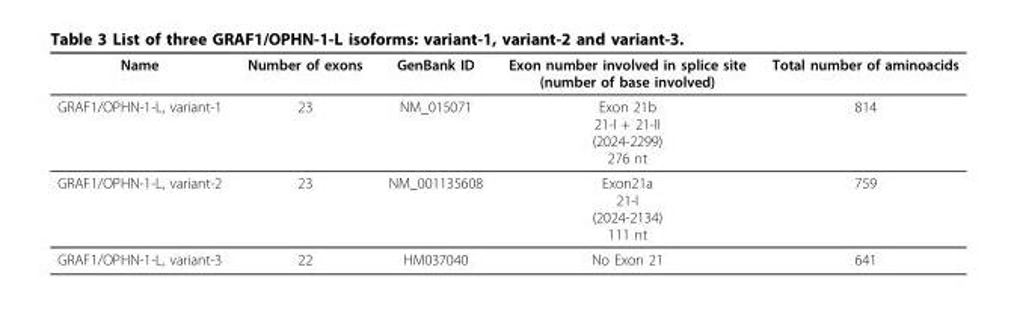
<table><thead><tr><td>Name</td><td>Number of exons</td><td>GenBank ID</td><td>Exon number involved in splice site (number of base involved)</td><td>Total number of aminoacids</td></tr></thead><tbody><tr><td>GRAF1/OPHN-1-L, variant-1</td><td>23</td><td>NM_015071</td><td>Exon 21b 21-I + 21-II (2024-2299) 276 nt</td><td>814</td></tr><tr><td>GRAF1/OPHN-1-L, variant-2</td><td>23</td><td>NM_001135608</td><td>Exon21a 21-I (2024-2134) 111 nt</td><td>759</td></tr><tr><td>GRAF1/OPHN-1-L, variant-3</td><td>22</td><td>HM037040</td><td>No Exon 21</td><td>641</td></tr></tbody></table>